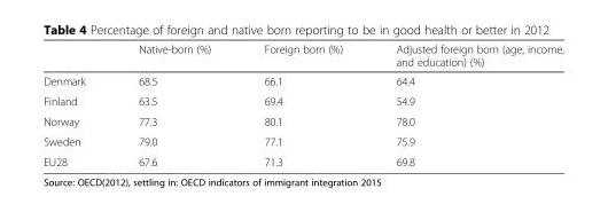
<table><thead><tr><td></td><td>Native-born (%)</td><td>Foreign born (%)</td><td>Adjusted foreign born (age, income, and education) (%)</td></tr></thead><tbody><tr><td>Denmark</td><td>68.5</td><td>66.1</td><td>64.4</td></tr><tr><td>Finland</td><td>63.5</td><td>69.4</td><td>54.9</td></tr><tr><td>Norway</td><td>77.3</td><td>80.1</td><td>78.0</td></tr><tr><td>Sweden</td><td>79.0</td><td>77.1</td><td>75.9</td></tr><tr><td>EU28</td><td>67.6</td><td>71.3</td><td>69.8</td></tr></tbody></table>